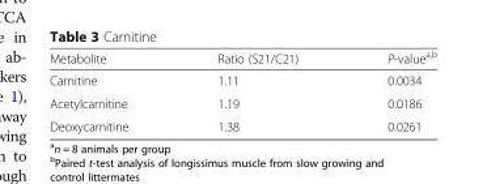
<table><thead><tr><td>Metabolite</td><td>Ratio (S21/C21)</td><td>P-value<sup>a,b</sup></td></tr></thead><tbody><tr><td>Carnitine</td><td>1.11</td><td>0.0034</td></tr><tr><td>Acetylcarnitine</td><td>1.19</td><td>0.0186</td></tr><tr><td>Deoxycarnitine</td><td>1.38</td><td>0.0261</td></tr></tbody></table>